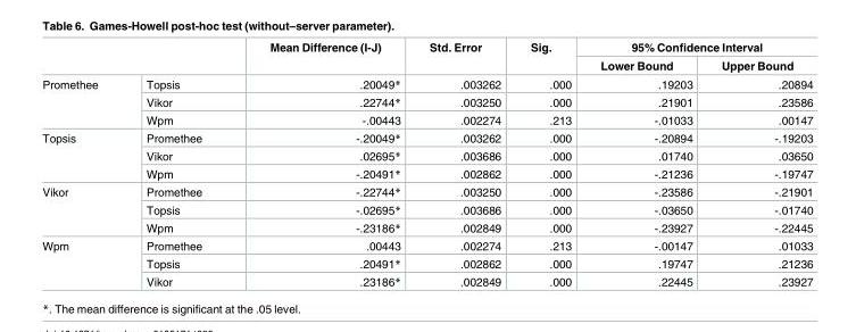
<table><thead><tr><td rowspan="2"></td><td rowspan="2"></td><td rowspan="2">Mean Difference (I-J)</td><td rowspan="2">Std. Error</td><td rowspan="2">Sig.</td><td colspan="2">95% Confidence Interval</td></tr><tr><td>Lower Bound</td><td>Upper Bound</td></tr></thead><tbody><tr><td rowspan="3">Promethee</td><td>Topsis</td><td>.20049*</td><td>.003262</td><td>.000</td><td>.19203</td><td>.20894</td></tr><tr><td>Vikor</td><td>.22744*</td><td>.003250</td><td>.000</td><td>.21901</td><td>.23586</td></tr><tr><td>Wpm</td><td>-.00443</td><td>.002274</td><td>.213</td><td>-.01033</td><td>.00147</td></tr><tr><td rowspan="3">Topsis</td><td>Promethee</td><td>-.20049*</td><td>.003262</td><td>.000</td><td>-.20894</td><td>-.19203</td></tr><tr><td>Vikor</td><td>.02695*</td><td>.003686</td><td>.000</td><td>.01740</td><td>.03650</td></tr><tr><td>Wpm</td><td>-.20491*</td><td>.002862</td><td>.000</td><td>-.21236</td><td>-.19747</td></tr><tr><td rowspan="3">Vikor</td><td>Promethee</td><td>-.22744*</td><td>.003250</td><td>.000</td><td>-.23586</td><td>-.21901</td></tr><tr><td>Topsis</td><td>-.02695*</td><td>.003686</td><td>.000</td><td>-.03650</td><td>-.01740</td></tr><tr><td>Wpm</td><td>-.23186*</td><td>.002849</td><td>.000</td><td>-.23927</td><td>-.22445</td></tr><tr><td rowspan="3">Wpm</td><td>Promethee</td><td>.00443</td><td>.002274</td><td>.213</td><td>-.00147</td><td>.01033</td></tr><tr><td>Topsis</td><td>.20491*</td><td>.002862</td><td>.000</td><td>.19747</td><td>.21236</td></tr><tr><td>Vikor</td><td>.23186*</td><td>.002849</td><td>.000</td><td>.22445</td><td>.23927</td></tr></tbody></table>